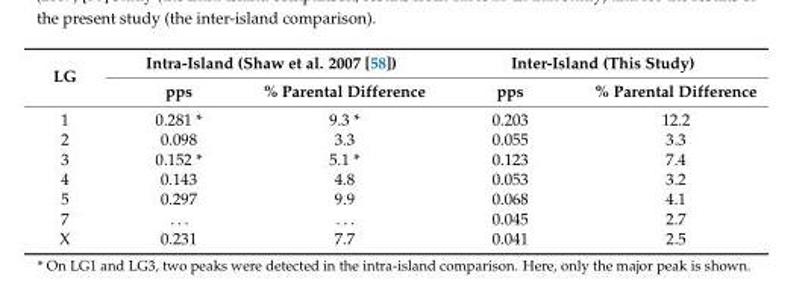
<table><thead><tr><td rowspan="2">LG</td><td colspan="2">Intra-Island (Shaw et al. 2007 [58])</td><td colspan="2">Inter-Island (This Study)</td></tr><tr><td>pps</td><td>% Parental Difference</td><td>pps</td><td>% Parental Difference</td></tr></thead><tbody><tr><td>1</td><td>0.281 *</td><td>9.3 *</td><td>0.203</td><td>12.2</td></tr><tr><td>2</td><td>0.098</td><td>3.3</td><td>0.055</td><td>3.3</td></tr><tr><td>3</td><td>0.152 *</td><td>5.1 *</td><td>0.123</td><td>7.4</td></tr><tr><td>4</td><td>0.143</td><td>4.8</td><td>0.053</td><td>3.2</td></tr><tr><td>5</td><td>0.297</td><td>9.9</td><td>0.068</td><td>4.1</td></tr><tr><td>7</td><td>. . .</td><td>. . .</td><td>0.045</td><td>2.7</td></tr><tr><td>X</td><td>0.231</td><td>7.7</td><td>0.041</td><td>2.5</td></tr></tbody></table>